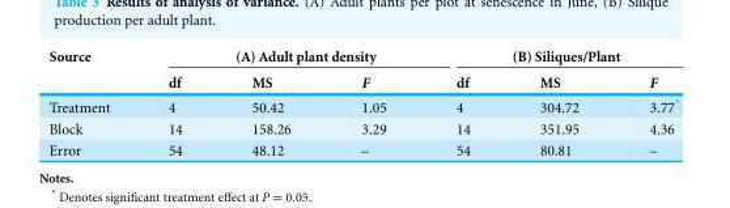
<table><thead><tr><td rowspan="2">Source</td><td colspan="3">(A) Adult plant density</td><td colspan="3">(B) Siliques/Plant</td></tr><tr><td>df</td><td>MS</td><td>F</td><td>df</td><td>MS</td><td>F</td></tr></thead><tbody><tr><td>Treatment</td><td>4</td><td>50.42</td><td>1.05</td><td>4</td><td>304.72</td><td>3.77*</td></tr><tr><td>Block</td><td>14</td><td>158.26</td><td>3.29</td><td>14</td><td>351.95</td><td>4.36</td></tr><tr><td>Error</td><td>54</td><td>48.12</td><td>–</td><td>54</td><td>80.81</td><td>–</td></tr></tbody></table>